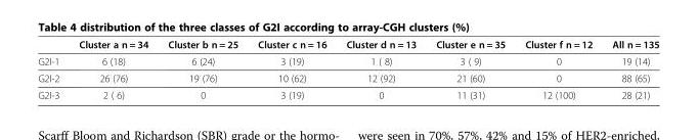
<table><thead><tr><td></td><td>Cluster a n = 34</td><td>Cluster b n = 25</td><td>Cluster c n = 16</td><td>Cluster d n = 13</td><td>Cluster e n = 35</td><td>Cluster f n = 12</td><td>All n = 135</td></tr></thead><tbody><tr><td>G2I-1</td><td>6 (18)</td><td>6 (24)</td><td>3 (19)</td><td>1 ( 8)</td><td>3 ( 9)</td><td>0</td><td>19 (14)</td></tr><tr><td>G2I-2</td><td>26 (76)</td><td>19 (76)</td><td>10 (62)</td><td>12 (92)</td><td>21 (60)</td><td>0</td><td>88 (65)</td></tr><tr><td>G2I-3</td><td>2 ( 6)</td><td>0</td><td>3 (19)</td><td>0</td><td>11 (31)</td><td>12 (100)</td><td>28 (21)</td></tr></tbody></table>